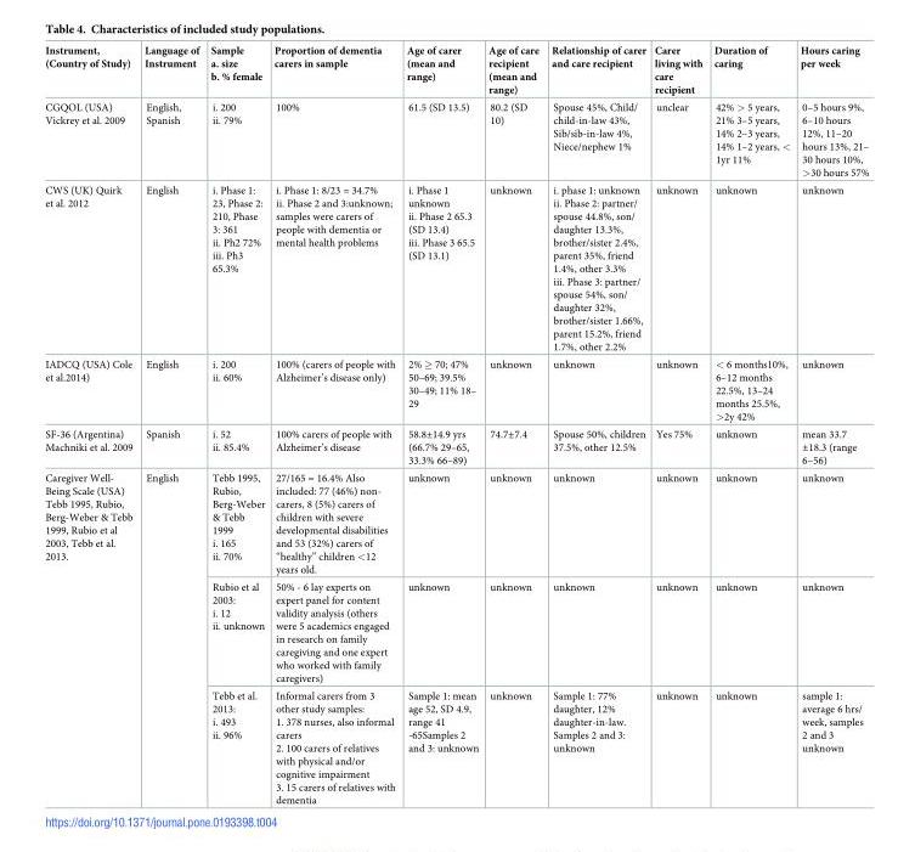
<table><thead><tr><td>Instrument, (Country of Study)</td><td>Language of Instrument</td><td>Sample a. size b. % female</td><td>Proportion of dementia carers in sample</td><td>Age of carer (mean and range)</td><td>Age of care recipient (mean and range)</td><td>Relationship of carer and care recipient</td><td>Carer living with care recipient</td><td>Duration of caring</td><td>Hours caring per week</td></tr></thead><tbody><tr><td>CGQOL (USA) Vickrey et al. 2009</td><td>English, Spanish</td><td>i. 200 ii. 79%</td><td>100%</td><td>61.5 (SD 13.5)</td><td>80.2 (SD 10)</td><td>Spouse 45%, Child/ child-in-law 43%, Sib/sib-in-law 4%, Niece/nephew 1%</td><td>unclear</td><td>42% &gt; 5 years, 21% 3–5 years, 14% 2–3 years, 14% 1–2 years, &lt; 1yr 11%</td><td>0–5 hours 9%, 6–10 hours 12%, 11–20 hours 13%, 21– 30 hours 10%, &gt;30 hours 57%</td></tr><tr><td>CWS (UK) Quirk et al. 2012</td><td>English</td><td>i. Phase 1: 23, Phase 2: 210, Phase 3: 361 ii. Ph2 72% iii. Ph3 65.3%</td><td>i. Phase 1: 8/23 = 34.7% ii. Phase 2 and 3:unknown; samples were carers of people with dementia or mental health problems</td><td>i. Phase 1 unknown ii. Phase 2 65.3 (SD 13.4) iii. Phase 3 65.5 (SD 13.1)</td><td>unknown</td><td>i. phase 1: unknown ii. Phase 2: partner/ spouse 44.8%, son/ daughter 13.3%, brother/sister 2.4%, parent 35%, friend 1.4%, other 3.3% iii. Phase 3: partner/ spouse 54%, son/ daughter 32%, brother/sister 1.66%, parent 15.2%, friend 1.7%, other 2.2%</td><td>unknown</td><td>unknown</td><td>unknown</td></tr><tr><td>IADCQ (USA) Cole et al.2014)</td><td>English</td><td>i. 200 ii. 60%</td><td>100% (carers of people with Alzheimer’s disease only)</td><td>2% ≥ 70; 47% 50–69; 39.5% 30–49; 11% 18– 29</td><td>unknown</td><td>unknown</td><td>unknown</td><td>&lt; 6 months10%, 6–12 months 22.5%, 13–24 months 25.5%, &gt;2y 42%</td><td>unknown</td></tr><tr><td>SF-36 (Argentina) Machniki et al. 2009</td><td>Spanish</td><td>i. 52 ii. 85.4%</td><td>100% carers of people with Alzheimer’s disease</td><td>58.8±14.9 yrs (66.7% 29–65, 33.3% 66–89)</td><td>74.7±7.4</td><td>Spouse 50%, children 37.5%, other 12.5%</td><td>Yes 75%</td><td>unknown</td><td>mean 33.7 ±18.3 (range 6–56)</td></tr><tr><td rowspan="3">Caregiver Well- Being Scale (USA) Tebb 1995, Rubio, Berg-Weber &amp; Tebb 1999, Rubio et al 2003, Tebb et al. 2013.</td><td rowspan="3">English</td><td>Tebb 1995, Rubio, Berg-Weber &amp; Tebb 1999 i. 165 ii. 70%</td><td>27/165 = 16.4% Also included: 77 (46%) non- carers, 8 (5%) carers of children with severe developmental disabilities and 53 (32%) carers of “healthy” children &lt;12 years old.</td><td>unknown</td><td>unknown</td><td>unknown</td><td>unknown</td><td>unknown</td><td>unknown</td></tr><tr><td>Rubio et al 2003: i. 12 ii. unknown</td><td>50% - 6 lay experts on expert panel for content validity analysis (others were 5 academics engaged in research on family caregiving and one expert who worked with family caregivers)</td><td>unknown</td><td>unknown</td><td>unknown</td><td>unknown</td><td>unknown</td><td>unknown</td></tr><tr><td>Tebb et al. 2013: i. 493 ii. 96%</td><td>Informal carers from 3 other study samples: 1. 378 nurses, also informal carers 2. 100 carers of relatives with physical and/or cognitive impairment 3. 15 carers of relatives with dementia</td><td>Sample 1: mean age 52, SD 4.9, range 41 -65Samples 2 and 3: unknown</td><td>unknown</td><td>Sample 1: 77% daughter, 12% daughter-in-law. Samples 2 and 3: unknown</td><td>unknown</td><td>unknown</td><td>sample 1: average 6 hrs/ week, samples 2 and 3 unknown</td></tr></tbody></table>